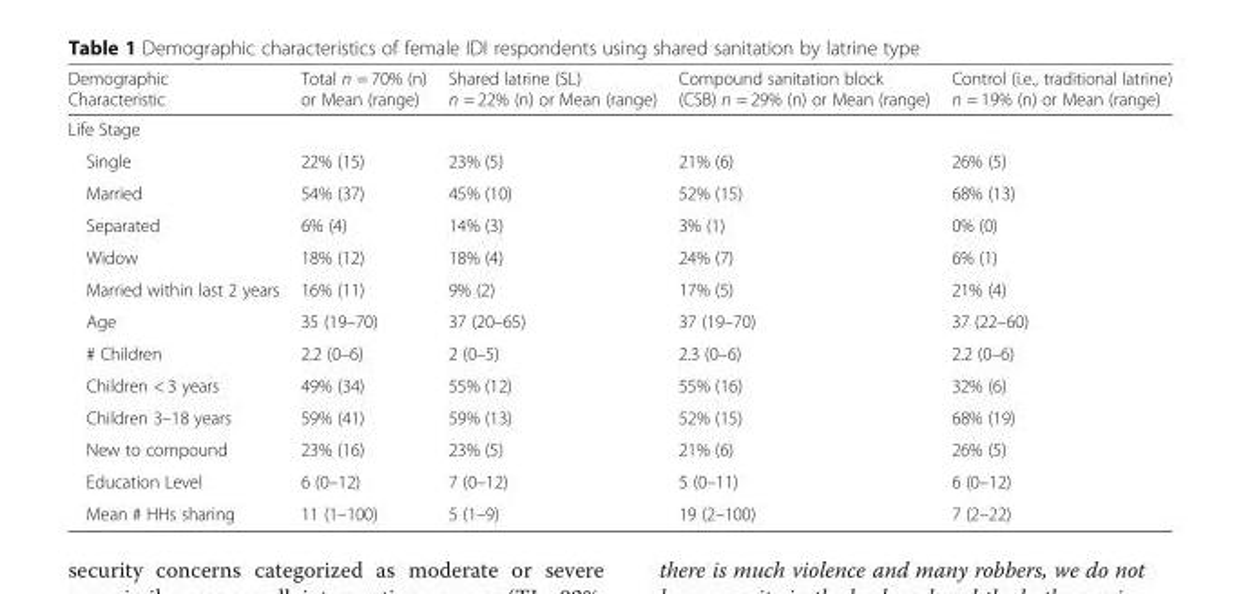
<table><thead><tr><td>Demographic Characteristic</td><td>Total n = 70% (n) or Mean (range)</td><td>Shared latrine (SL) n = 22% (n) or Mean (range)</td><td>Compound sanitation block (CSB) n = 29% (n) or Mean (range)</td><td>Control (i.e., traditional latrine) n = 19% (n) or Mean (range)</td></tr></thead><tbody><tr><td colspan="5">Life Stage</td></tr><tr><td>Single</td><td>22% (15)</td><td>23% (5)</td><td>21% (6)</td><td>26% (5)</td></tr><tr><td>Married</td><td>54% (37)</td><td>45% (10)</td><td>52% (15)</td><td>68% (13)</td></tr><tr><td>Separated</td><td>6% (4)</td><td>14% (3)</td><td>3% (1)</td><td>0% (0)</td></tr><tr><td>Widow</td><td>18% (12)</td><td>18% (4)</td><td>24% (7)</td><td>6% (1)</td></tr><tr><td>Married within last 2 years</td><td>16% (11)</td><td>9% (2)</td><td>17% (5)</td><td>21% (4)</td></tr><tr><td>Age</td><td>35 (19–70)</td><td>37 (20–65)</td><td>37 (19–70)</td><td>37 (22–60)</td></tr><tr><td># Children</td><td>2.2 (0–6)</td><td>2 (0–5)</td><td>2.3 (0–6)</td><td>2.2 (0–6)</td></tr><tr><td>Children &lt; 3 years</td><td>49% (34)</td><td>55% (12)</td><td>55% (16)</td><td>32% (6)</td></tr><tr><td>Children 3–18 years</td><td>59% (41)</td><td>59% (13)</td><td>52% (15)</td><td>68% (19)</td></tr><tr><td>New to compound</td><td>23% (16)</td><td>23% (5)</td><td>21% (6)</td><td>26% (5)</td></tr><tr><td>Education Level</td><td>6 (0–12)</td><td>7 (0–12)</td><td>5 (0–11)</td><td>6 (0–12)</td></tr><tr><td>Mean # HHs sharing</td><td>11 (1–100)</td><td>5 (1–9)</td><td>19 (2–100)</td><td>7 (2–22)</td></tr></tbody></table>